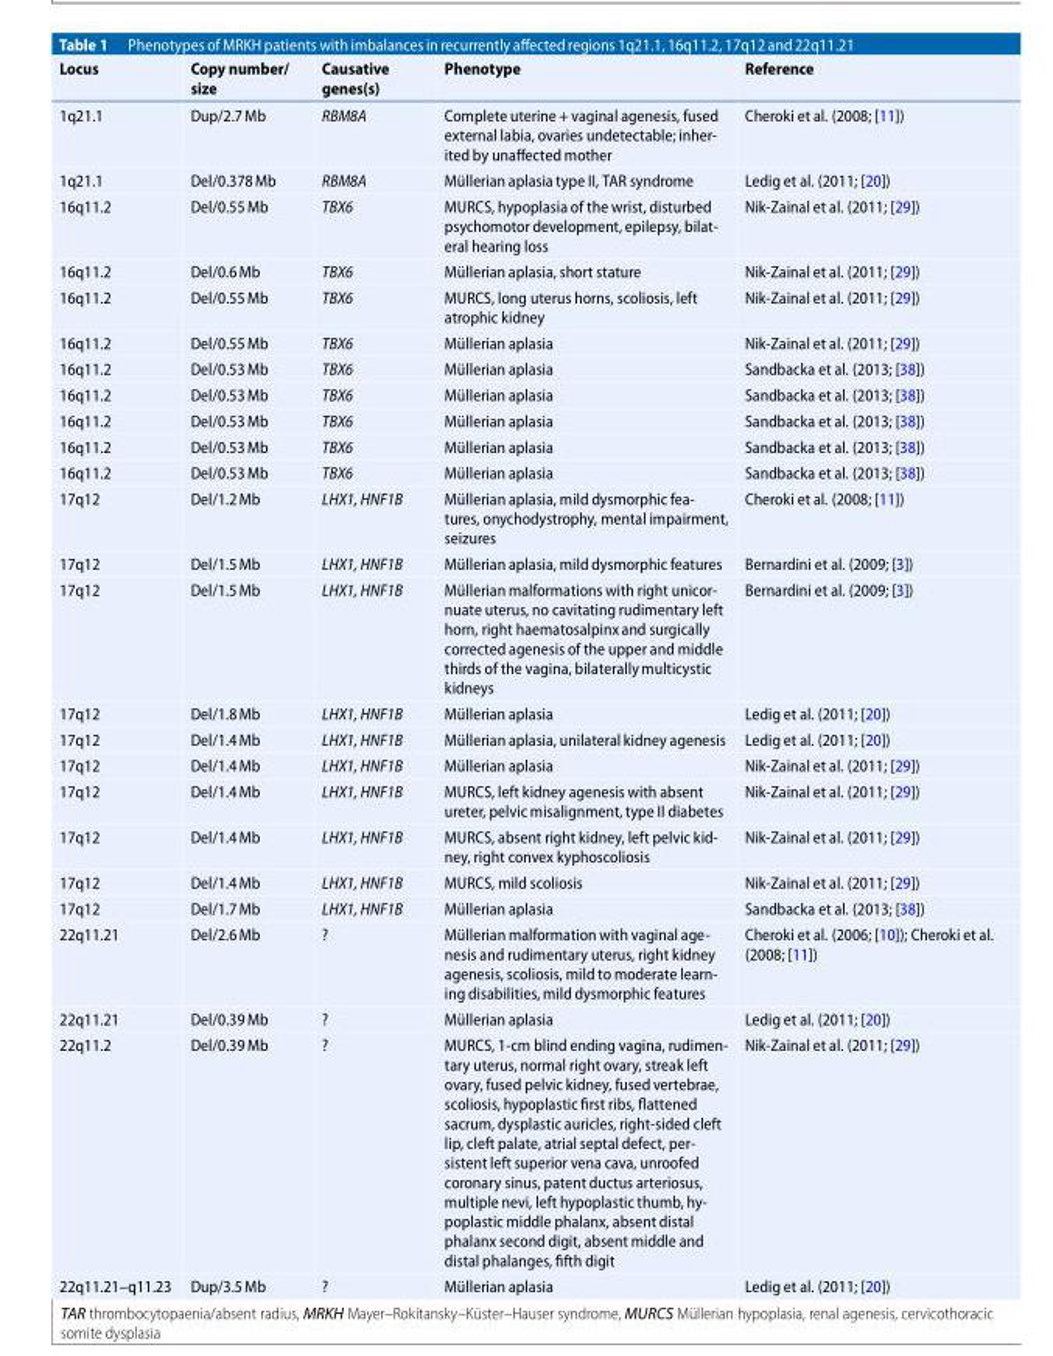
<table><thead><tr><td>Locus</td><td>Copy number/ size</td><td>Causative genes(s)</td><td>Phenotype</td><td>Reference</td></tr></thead><tbody><tr><td>1q21.1</td><td>Dup/2.7Mb</td><td>RBM8A</td><td>Complete uterine+ vaginal agenesis, fused external labia, ovaries undetectable; inher- ited by unaffected mother</td><td>Cheroki et al. (2008; [11])</td></tr><tr><td>1q21.1</td><td>Del/0.378Mb</td><td>RBM8A</td><td>Müllerian aplasia type II, TAR syndrome</td><td>Ledig et al. (2011; [20])</td></tr><tr><td>16q11.2</td><td>Del/0.55Mb</td><td>TBX6</td><td>MURCS, hypoplasia of the wrist, disturbed psychomotor development, epilepsy, bilat- eral hearing loss</td><td>Nik-Zainal et al. (2011; [29])</td></tr><tr><td>16q11.2</td><td>Del/0.6Mb</td><td>TBX6</td><td>Müllerian aplasia, short stature</td><td>Nik-Zainal et al. (2011; [29])</td></tr><tr><td>16q11.2</td><td>Del/0.55Mb</td><td>TBX6</td><td>MURCS, long uterus horns, scoliosis, left atrophic kidney</td><td>Nik-Zainal et al. (2011; [29])</td></tr><tr><td>16q11.2</td><td>Del/0.55Mb</td><td>TBX6</td><td>Müllerian aplasia</td><td>Nik-Zainal et al. (2011; [29])</td></tr><tr><td>16q11.2</td><td>Del/0.53Mb</td><td>TBX6</td><td>Müllerian aplasia</td><td>Sandbacka et al. (2013; [38])</td></tr><tr><td>16q11.2</td><td>Del/0.53Mb</td><td>TBX6</td><td>Müllerian aplasia</td><td>Sandbacka et al. (2013; [38])</td></tr><tr><td>16q11.2</td><td>Del/0.53Mb</td><td>TBX6</td><td>Müllerian aplasia</td><td>Sandbacka et al. (2013; [38])</td></tr><tr><td>16q11.2</td><td>Del/0.53Mb</td><td>TBX6</td><td>Müllerian aplasia</td><td>Sandbacka et al. (2013; [38])</td></tr><tr><td>16q11.2</td><td>Del/0.53Mb</td><td>TBX6</td><td>Müllerian aplasia</td><td>Sandbacka et al. (2013; [38])</td></tr><tr><td>17q12</td><td>Del/1.2Mb</td><td>LHX1, HNF1B</td><td>Müllerian aplasia, mild dysmorphic fea- tures, onychodystrophy, mental impairment, seizures</td><td>Cheroki et al. (2008; [11])</td></tr><tr><td>17q12</td><td>Del/1.5Mb</td><td>LHX1, HNF1B</td><td>Müllerian aplasia, mild dysmorphic features</td><td>Bernardini et al. (2009; [3])</td></tr><tr><td>17q12</td><td>Del/1.5Mb</td><td>LHX1, HNF1B</td><td>Müllerian malformations with right unicor- nuate uterus, no cavitating rudimentary left horn, right haematosalpinxand surgically corrected agenesis of the upper and middle thirds of the vagina, bilaterallymulticystic kidneys</td><td>Bernardini et al. (2009; [3])</td></tr><tr><td>17q12</td><td>Del/1.8Mb</td><td>LHX1, HNF1B</td><td>Müllerian aplasia</td><td>Ledig et al. (2011; [20])</td></tr><tr><td>17q12</td><td>Del/1.4Mb</td><td>LHX1, HNF1B</td><td>Müllerian aplasia, unilateralkidney agenesis</td><td>Ledig et al. (2011; [20])</td></tr><tr><td>17q12</td><td>Del/1.4Mb</td><td>LHX1, HNF1B</td><td>Müllerian aplasia</td><td>Nik-Zainal et al. (2011; [29])</td></tr><tr><td>17q12</td><td>Del/1.4Mb</td><td>LHX1, HNF1B</td><td>MURCS, left kidney agenesis with absent ureter, pelvic misalignment,type II diabetes</td><td>Nik-Zainal et al. (2011; [29])</td></tr><tr><td>17q12</td><td>Del/1.4Mb</td><td>LHX1, HNF1B</td><td>MURCS, absent right kidney, left pelvic kid- ney, right convex kyphoscoliosis</td><td>Nik-Zainal et al. (2011; [29])</td></tr><tr><td>17q12</td><td>Del/1.4Mb</td><td>LHX1, HNF1B</td><td>MURCS, mild scoliosis</td><td>Nik-Zainal et al. (2011; [29])</td></tr><tr><td>17q12</td><td>Del/1.7Mb</td><td>LHX1, HNF1B</td><td>Müllerian aplasia</td><td>Sandbacka et al. (2013; [38])</td></tr><tr><td>22q11.21</td><td>Del/2.6Mb</td><td>?</td><td>Müllerian malformation with vaginal age- nesis and rudimentary uterus, right kidney agenesis, scoliosis, mild to moderate learn- ing disabilities, mild dysmorphic features</td><td>Cheroki et al. (2006; [10]); Cheroki et al. (2008; [11])</td></tr><tr><td>22q11.21</td><td>Del/0.39Mb</td><td>?</td><td>Müllerian aplasia</td><td>Ledig et al. (2011; [20])</td></tr><tr><td>22q11.2</td><td>Del/0.39Mb</td><td>?</td><td>MURCS, 1-cm blind ending vagina, rudimen- tary uterus, normal right ovary, streak left ovary, fused pelvic kidney, fused vertebrae, scoliosis, hypoplastic first ribs, flattened sacrum, dysplastic auricles, right-sided cleft lip, cleft palate, atrial septal defect, per- sistent left superior vena cava, unroofed coronary sinus, patent ductus arteriosus, multiple nevi, left hypoplastic thumb, hy- poplastic middle phalanx, absent distal phalanx second digit, absent middle and distal phalanges, fifth digit</td><td>Nik-Zainal et al. (2011; [29])</td></tr><tr><td>22q11.21–q11.23</td><td>Dup/3.5Mb</td><td>?</td><td>Müllerian aplasia</td><td>Ledig et al. (2011; [20])</td></tr></tbody></table>